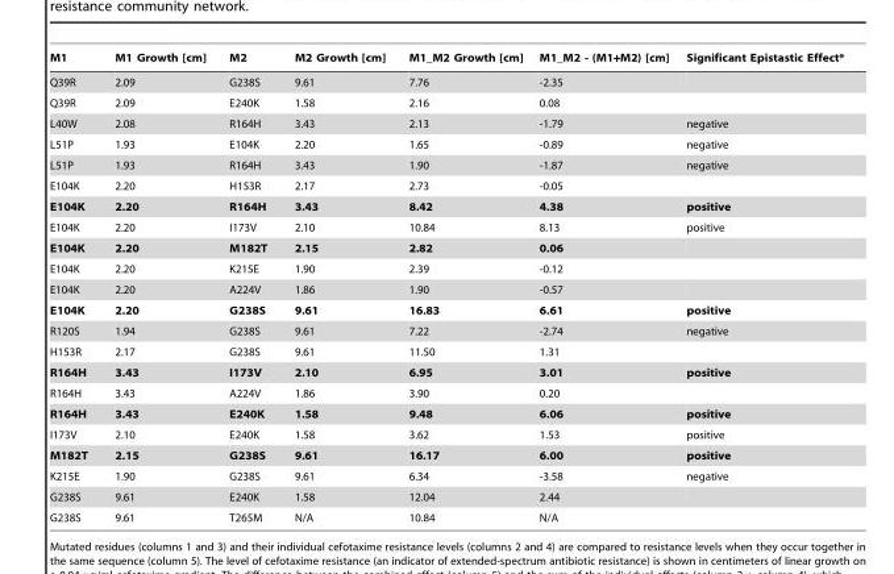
<table><thead><tr><td>M1</td><td>M1 Growth [cm]</td><td>M2</td><td>M2 Growth [cm]</td><td>M1_M2 Growth [cm]</td><td>M1_M2 - (M1+M2) [cm]</td><td>Significant Epistastic Effect*</td></tr></thead><tbody><tr><td>Q39R</td><td>2.09</td><td>G238S</td><td>9.61</td><td>7.76</td><td>-2.35</td><td></td></tr><tr><td>Q39R</td><td>2.09</td><td>E240K</td><td>1.58</td><td>2.16</td><td>0.08</td><td></td></tr><tr><td>L40W</td><td>2.08</td><td>R164H</td><td>3.43</td><td>2.13</td><td>-1.79</td><td>negative</td></tr><tr><td>L51P</td><td>1.93</td><td>E104K</td><td>2.20</td><td>1.65</td><td>-0.89</td><td>negative</td></tr><tr><td>L51P</td><td>1.93</td><td>R164H</td><td>3.43</td><td>1.90</td><td>-1.87</td><td>negative</td></tr><tr><td>E104K</td><td>2.20</td><td>H153R</td><td>2.17</td><td>2.73</td><td>-0.05</td><td></td></tr><tr><td>E104K</td><td>2.20</td><td>R164H</td><td>3.43</td><td>8.42</td><td>4.38</td><td>positive</td></tr><tr><td>E104K</td><td>2.20</td><td>I173V</td><td>2.10</td><td>10.84</td><td>8.13</td><td>positive</td></tr><tr><td>E104K</td><td>2.20</td><td>M182T</td><td>2.15</td><td>2.82</td><td>0.06</td><td></td></tr><tr><td>E104K</td><td>2.20</td><td>K215E</td><td>1.90</td><td>2.39</td><td>-0.12</td><td></td></tr><tr><td>E104K</td><td>2.20</td><td>A224V</td><td>1.86</td><td>1.90</td><td>-0.57</td><td></td></tr><tr><td>E104K</td><td>2.20</td><td>G238S</td><td>9.61</td><td>16.83</td><td>6.61</td><td>positive</td></tr><tr><td>R120S</td><td>1.94</td><td>G238S</td><td>9.61</td><td>7.22</td><td>-2.74</td><td>negative</td></tr><tr><td>H153R</td><td>2.17</td><td>G238S</td><td>9.61</td><td>11.50</td><td>1.31</td><td></td></tr><tr><td>R164H</td><td>3.43</td><td>I173V</td><td>2.10</td><td>6.95</td><td>3.01</td><td>positive</td></tr><tr><td>R164H</td><td>3.43</td><td>A224V</td><td>1.86</td><td>3.90</td><td>0.20</td><td></td></tr><tr><td>R164H</td><td>3.43</td><td>E240K</td><td>1.58</td><td>9.48</td><td>6.06</td><td>positive</td></tr><tr><td>I173V</td><td>2.10</td><td>E240K</td><td>1.58</td><td>3.62</td><td>1.53</td><td>positive</td></tr><tr><td>M182T</td><td>2.15</td><td>G238S</td><td>9.61</td><td>16.17</td><td>6.00</td><td>positive</td></tr><tr><td>K215E</td><td>1.90</td><td>G238S</td><td>9.61</td><td>6.34</td><td>-3.58</td><td>negative</td></tr><tr><td>G238S</td><td>9.61</td><td>E240K</td><td>1.58</td><td>12.04</td><td>2.44</td><td></td></tr><tr><td>G238S</td><td>9.61</td><td>T265M</td><td>N/A</td><td>10.84</td><td>N/A</td><td></td></tr></tbody></table>